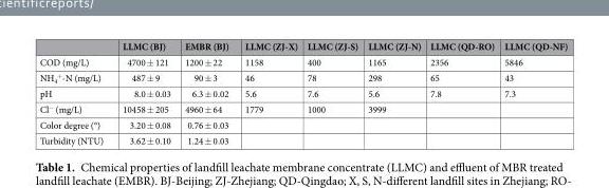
<table><thead><tr><td></td><td>LLMC (BJ)</td><td>EMBR (BJ)</td><td>LLMC (ZJ-X)</td><td>LLMC (ZJ-S)</td><td>LLMC (ZJ-N)</td><td>LLMC (QD-RO)</td><td>LLMC (QD-NF)</td></tr></thead><tbody><tr><td>COD (mg/L)</td><td>4700 ± 121</td><td>1200 ± 22</td><td>1158</td><td>400</td><td>1165</td><td>2356</td><td>5846</td></tr><tr><td>NH<sub>4</sub> <sup>+</sup>-N (mg/L)</td><td>487 ± 9</td><td>90 ± 3</td><td>46</td><td>78</td><td>298</td><td>65</td><td>43</td></tr><tr><td>pH</td><td>8.0 ± 0.03</td><td>6.3 ± 0.02</td><td>5.6</td><td>7.6</td><td>5.6</td><td>7.8</td><td>7.3</td></tr><tr><td>Cl<sup>−</sup> (mg/L)</td><td>10458 ± 205</td><td>4960 ± 64</td><td>1779</td><td>1000</td><td>3999</td><td></td><td></td></tr><tr><td>Color degree (°)</td><td>3.20 ± 0.08</td><td>0.76 ± 0.03</td><td></td><td></td><td></td><td></td><td></td></tr><tr><td>Turbidity (NTU)</td><td>3.62 ± 0.10</td><td>1.24 ± 0.03</td><td></td><td></td><td></td><td></td><td></td></tr></tbody></table>